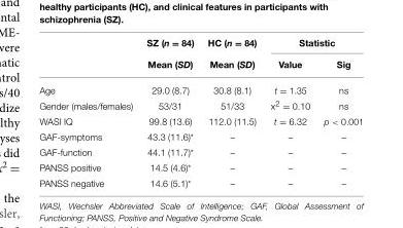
<table><thead><tr><td rowspan="2"></td><td rowspan="2">SZ (n = 84) Mean (SD)</td><td rowspan="2">HC (n = 84) Mean (SD)</td><td colspan="2">Statistic</td></tr><tr><td>Value</td><td>Sig</td></tr></thead><tbody><tr><td>Age</td><td>29.0 (8.7)</td><td>30.8 (8.1)</td><td>t = 1.35</td><td>ns</td></tr><tr><td>Gender (males/females)</td><td>53/31</td><td>51/33</td><td>x<sup>2</sup> = 0.10</td><td>ns</td></tr><tr><td>WASI IQ</td><td>99.8 (13.6)</td><td>112.0 (11.5)</td><td>t = 6.32</td><td>p &lt; 0.001</td></tr><tr><td>GAF-symptoms</td><td>43.3 (11.6)*</td><td>–</td><td>–</td><td>–</td></tr><tr><td>GAF-function</td><td>44.1 (11.7)*</td><td>–</td><td>–</td><td>–</td></tr><tr><td>PANSS positive</td><td>14.5 (4.6)*</td><td>–</td><td>–</td><td>–</td></tr><tr><td>PANSS negative</td><td>14.6 (5.1)*</td><td>–</td><td>–</td><td>–</td></tr></tbody></table>